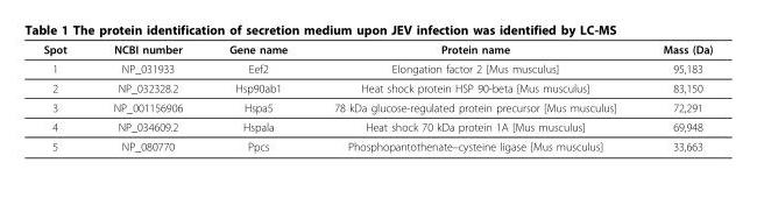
<table><thead><tr><td>Spot</td><td>NCBI number</td><td>Gene name</td><td>Protein name</td><td>Mass (Da)</td></tr></thead><tbody><tr><td>1</td><td>NP_031933</td><td>Eef2</td><td>Elongation factor 2 [Mus musculus]</td><td>95,183</td></tr><tr><td>2</td><td>NP_032328.2</td><td>Hsp90ab1</td><td>Heat shock protein HSP 90-beta [Mus musculus]</td><td>83,150</td></tr><tr><td>3</td><td>NP_001156906</td><td>Hspa5</td><td>78 kDa glucose-regulated protein precursor [Mus musculus]</td><td>72,291</td></tr><tr><td>4</td><td>NP_034609.2</td><td>Hspala</td><td>Heat shock 70 kDa protein 1A [Mus musculus]</td><td>69,948</td></tr><tr><td>5</td><td>NP_080770</td><td>Ppcs</td><td>Phosphopantothenate–cysteine ligase [Mus musculus]</td><td>33,663</td></tr></tbody></table>